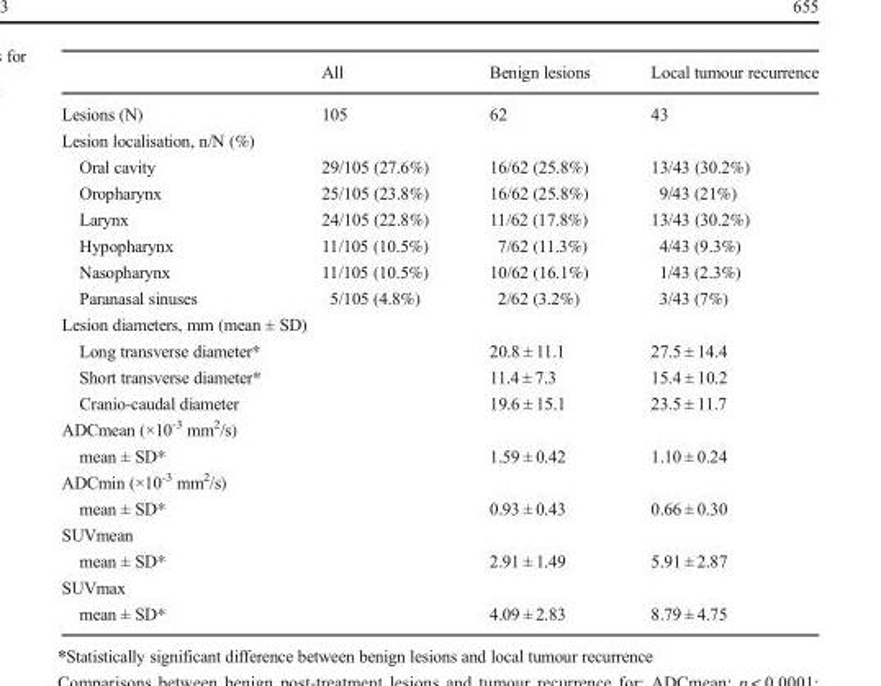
<table><thead><tr><td></td><td>All</td><td>Benign lesions</td><td>Local tumour recurrence</td></tr></thead><tbody><tr><td>Lesions (N)</td><td>105</td><td>62</td><td>43</td></tr><tr><td colspan="4">Lesion localisation, n/N (%)</td></tr><tr><td>Oral cavity</td><td>29/105 (27.6%)</td><td>16/62 (25.8%)</td><td>13/43 (30.2%)</td></tr><tr><td>Oropharynx</td><td>25/105 (23.8%)</td><td>16/62 (25.8%)</td><td>9/43 (21%)</td></tr><tr><td>Larynx</td><td>24/105 (22.8%)</td><td>11/62 (17.8%)</td><td>13/43 (30.2%)</td></tr><tr><td>Hypopharynx</td><td>11/105 (10.5%)</td><td>7/62 (11.3%)</td><td>4/43 (9.3%)</td></tr><tr><td>Nasopharynx</td><td>11/105 (10.5%)</td><td>10/62 (16.1%)</td><td>1/43 (2.3%)</td></tr><tr><td>Paranasal sinuses</td><td>5/105 (4.8%)</td><td>2/62 (3.2%)</td><td>3/43 (7%)</td></tr><tr><td colspan="4">Lesion diameters, mm (mean ± SD)</td></tr><tr><td>Long transverse diameter*</td><td></td><td>20.8 ± 11.1</td><td>27.5 ± 14.4</td></tr><tr><td>Short transverse diameter*</td><td></td><td>11.4 ± 7.3</td><td>15.4 ± 10.2</td></tr><tr><td>Cranio-caudal diameter</td><td></td><td>19.6 ± 15.1</td><td>23.5 ± 11.7</td></tr><tr><td colspan="4">ADCmean (×10<sup>-3</sup> mm<sup>2</sup>/s)</td></tr><tr><td>mean ± SD*</td><td></td><td>1.59 ± 0.42</td><td>1.10 ± 0.24</td></tr><tr><td colspan="4">ADCmin (×10<sup>-3</sup> mm<sup>2</sup>/s)</td></tr><tr><td>mean ± SD*</td><td></td><td>0.93 ± 0.43</td><td>0.66 ± 0.30</td></tr><tr><td colspan="4">SUVmean</td></tr><tr><td>mean ± SD*</td><td></td><td>2.91 ± 1.49</td><td>5.91 ± 2.87</td></tr><tr><td colspan="4">SUVmax</td></tr><tr><td>mean ± SD*</td><td></td><td>4.09 ± 2.83</td><td>8.79 ± 4.75</td></tr></tbody></table>